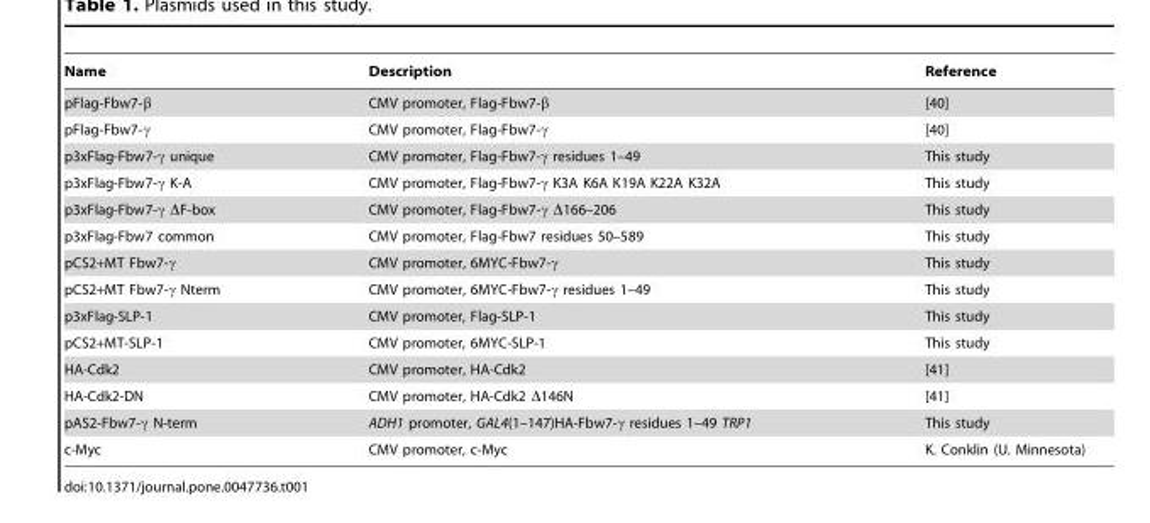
<table><thead><tr><td>Name</td><td>Description</td><td>Reference</td></tr></thead><tbody><tr><td>pFlag-Fbw7-β</td><td>CMV promoter, Flag-Fbw7-β</td><td>[40]</td></tr><tr><td>pFlag-Fbw7-γ</td><td>CMV promoter, Flag-Fbw7-γ</td><td>[40]</td></tr><tr><td>p3xFlag-Fbw7-γ unique</td><td>CMV promoter, Flag-Fbw7-γ residues 1–49</td><td>This study</td></tr><tr><td>p3xFlag-Fbw7-γ K-A</td><td>CMV promoter, Flag-Fbw7-γ K3A K6A K19A K22A K32A</td><td>This study</td></tr><tr><td>p3xFlag-Fbw7-γ ΔF-box</td><td>CMV promoter, Flag-Fbw7-γ Δ166–206</td><td>This study</td></tr><tr><td>p3xFlag-Fbw7 common</td><td>CMV promoter, Flag-Fbw7 residues 50–589</td><td>This study</td></tr><tr><td>pCS2+MT Fbw7-γ</td><td>CMV promoter, 6MYC-Fbw7-γ</td><td>This study</td></tr><tr><td>pCS2+MT Fbw7-γ Nterm</td><td>CMV promoter, 6MYC-Fbw7-γ residues 1–49</td><td>This study</td></tr><tr><td>p3xFlag-SLP-1</td><td>CMV promoter, Flag-SLP-1</td><td>This study</td></tr><tr><td>pCS2+MT-SLP-1</td><td>CMV promoter, 6MYC-SLP-1</td><td>This study</td></tr><tr><td>HA-Cdk2</td><td>CMV promoter, HA-Cdk2</td><td>[41]</td></tr><tr><td>HA-Cdk2-DN</td><td>CMV promoter, HA-Cdk2 Δ146N</td><td>[41]</td></tr><tr><td>pAS2-Fbw7-γ N-term</td><td>ADH1 promoter, GAL4(1–147)HA-Fbw7-γ residues 1–49 TRP1</td><td>This study</td></tr><tr><td>c-Myc</td><td>CMV promoter, c-Myc</td><td>K. Conklin (U. Minnesota)</td></tr></tbody></table>